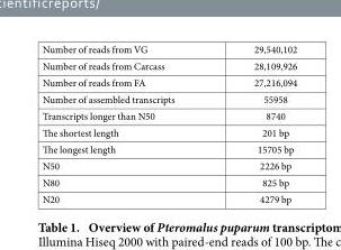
<table><tbody><tr><td>Number of reads from VG</td><td>29,540,102</td></tr><tr><td>Number of reads from Carcass</td><td>28,109,926</td></tr><tr><td>Number of reads from FA</td><td>27,216,094</td></tr><tr><td>Number of assembled transcripts</td><td>55958</td></tr><tr><td>Transcripts longer than N50</td><td>8740</td></tr><tr><td>The shortest length</td><td>201 bp</td></tr><tr><td>The longest length</td><td>15705 bp</td></tr><tr><td>N50</td><td>2226 bp</td></tr><tr><td>N80</td><td>825 bp</td></tr><tr><td>N20</td><td>4279 bp</td></tr></tbody></table>